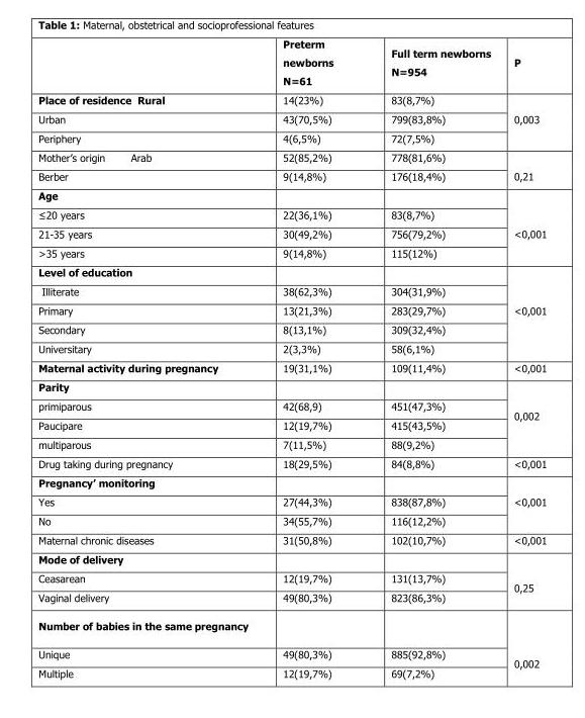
<table><thead><tr><td></td><td>Preterm newborns N=61</td><td>Full term newborns N=954</td><td>P</td></tr></thead><tbody><tr><td>Place of residence Rural</td><td>14(23%)</td><td>83(8,7%)</td><td rowspan="3">0,003</td></tr><tr><td>Urban</td><td>43(70,5%)</td><td>799(83,8%)</td></tr><tr><td>Periphery</td><td>4(6,5%)</td><td>72(7,5%)</td></tr><tr><td>Mother’s origin Arab</td><td>52(85,2%)</td><td>778(81,6%)</td><td rowspan="2">0,21</td></tr><tr><td>Berber</td><td>9(14,8%)</td><td>176(18,4%)</td></tr><tr><td colspan="3">Age</td><td rowspan="4">&lt;0,001</td></tr><tr><td>≤20 years</td><td>22(36,1%)</td><td>83(8,7%)</td></tr><tr><td>21-35 years</td><td>30(49,2%)</td><td>756(79,2%)</td></tr><tr><td>&gt;35 years</td><td>9(14,8%)</td><td>115(12%)</td></tr><tr><td colspan="3">Level of education</td><td rowspan="5">&lt;0,001</td></tr><tr><td>Illiterate</td><td>38(62,3%)</td><td>304(31,9%)</td></tr><tr><td>Primary</td><td>13(21,3%)</td><td>283(29,7%)</td></tr><tr><td>Secondary</td><td>8(13,1%)</td><td>309(32,4%)</td></tr><tr><td>Universitary</td><td>2(3,3%)</td><td>58(6,1%)</td></tr><tr><td>Maternal activity during pregnancy</td><td>19(31,1%)</td><td>109(11,4%)</td><td>&lt;0,001</td></tr><tr><td colspan="3">Parity</td><td rowspan="4">0,002</td></tr><tr><td>primiparous</td><td>42(68,9)</td><td>451(47,3%)</td></tr><tr><td>Paucipare</td><td>12(19,7%)</td><td>415(43,5%)</td></tr><tr><td>multiparous</td><td>7(11,5%)</td><td>88(9,2%)</td></tr><tr><td>Drug taking during pregnancy</td><td>18(29,5%)</td><td>84(8,8%)</td><td>&lt;0,001</td></tr><tr><td colspan="3">Pregnancy’ monitoring</td><td rowspan="3">&lt;0,001</td></tr><tr><td>Yes</td><td>27(44,3%)</td><td>838(87,8%)</td></tr><tr><td>No</td><td>34(55,7%)</td><td>116(12,2%)</td></tr><tr><td>Maternal chronic diseases</td><td>31(50,8%)</td><td>102(10,7%)</td><td>&lt;0,001</td></tr><tr><td colspan="3">Mode of delivery</td><td rowspan="3">0,25</td></tr><tr><td>Ceasarean</td><td>12(19,7%)</td><td>131(13,7%)</td></tr><tr><td>Vaginal delivery</td><td>49(80,3%)</td><td>823(86,3%)</td></tr><tr><td colspan="3">Number of babies in the same pregnancy</td><td rowspan="3">0,002</td></tr><tr><td>Unique</td><td>49(80,3%)</td><td>885(92,8%)</td></tr><tr><td>Multiple</td><td>12(19,7%)</td><td>69(7,2%)</td></tr></tbody></table>